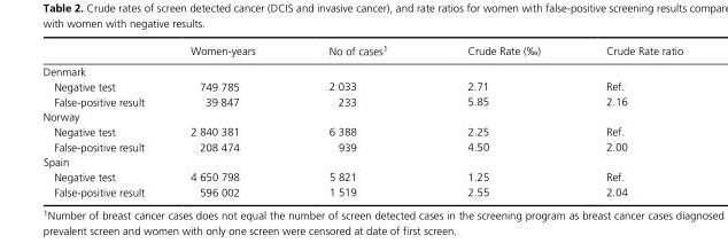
<table><thead><tr><td></td><td>Women- years</td><td>No of cases1</td><td>Crude Rate (‰)</td><td>Crude Rate ratio</td></tr></thead><tbody><tr><td colspan="5">Denmark</td></tr><tr><td>Negative test</td><td>749 785</td><td>2 033</td><td>2.71</td><td>Ref.</td></tr><tr><td>False- positive result</td><td>39 847</td><td>233</td><td>5.85</td><td>2.16</td></tr><tr><td colspan="5">Norway</td></tr><tr><td>Negative test</td><td>2 840 381</td><td>6 388</td><td>2.25</td><td>Ref.</td></tr><tr><td>False- positive result</td><td>208 474</td><td>939</td><td>4.50</td><td>2.00</td></tr><tr><td colspan="5">Spain</td></tr><tr><td>Negative test</td><td>4 650 798</td><td>5 821</td><td>1.25</td><td>Ref.</td></tr><tr><td>False- positive result</td><td>596 002</td><td>1 519</td><td>2.55</td><td>2.04</td></tr></tbody></table>